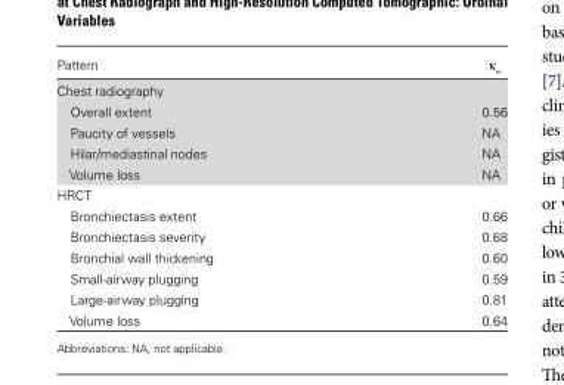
<table><thead><tr><td>Pattern</td><td>κ<sub>ω</sub></td></tr></thead><tbody><tr><td colspan="2">Chest radiography</td></tr><tr><td>Overall extent</td><td>0.56</td></tr><tr><td>Paucity of vessels</td><td>NA</td></tr><tr><td>Hilar/mediastinal nodes</td><td>NA</td></tr><tr><td>Volume loss</td><td>NA</td></tr><tr><td colspan="2">HRCT</td></tr><tr><td>Bronchiectasis extent</td><td>0.66</td></tr><tr><td>Bronchiectasis severity</td><td>0.68</td></tr><tr><td>Bronchial wall thickening</td><td>0.60</td></tr><tr><td>Small-airway plugging</td><td>0.59</td></tr><tr><td>Large-airway plugging</td><td>0.81</td></tr><tr><td>Volume loss</td><td>0.64</td></tr></tbody></table>